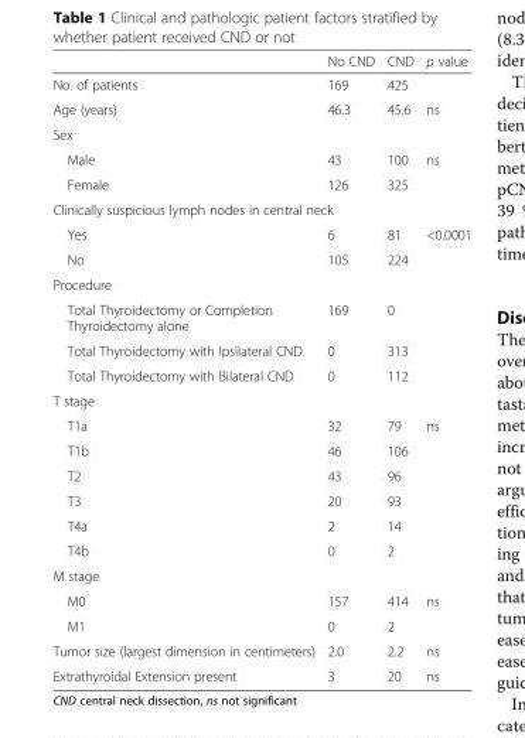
<table><thead><tr><td></td><td>No CND</td><td>CND</td><td>p value</td></tr></thead><tbody><tr><td>No. of patients</td><td>169</td><td>425</td><td></td></tr><tr><td>Age (years)</td><td>46.3</td><td>45.6</td><td>ns</td></tr><tr><td colspan="4">Sex</td></tr><tr><td>Male</td><td>43</td><td>100</td><td rowspan="2">ns</td></tr><tr><td>Female</td><td>126</td><td>325</td></tr><tr><td colspan="4">Clinically suspicious lymph nodes in central neck</td></tr><tr><td>Yes</td><td>6</td><td>81</td><td rowspan="2">&lt;0.0001</td></tr><tr><td>No</td><td>105</td><td>224</td></tr><tr><td colspan="4">Procedure</td></tr><tr><td>Total Thyroidectomy or Completion Thyroidectomy alone</td><td>169</td><td>0</td><td rowspan="3"></td></tr><tr><td>Total Thyroidectomy with Ipsilateral CND</td><td>0</td><td>313</td></tr><tr><td>Total Thyroidectomy with Bilateral CND</td><td>0</td><td>112</td></tr><tr><td colspan="4">T stage</td></tr><tr><td>T1a</td><td>32</td><td>79</td><td rowspan="6">ns</td></tr><tr><td>T1b</td><td>46</td><td>106</td></tr><tr><td>T2</td><td>43</td><td>96</td></tr><tr><td>T3</td><td>20</td><td>93</td></tr><tr><td>T4a</td><td>2</td><td>14</td></tr><tr><td>T4b</td><td>0</td><td>2</td></tr><tr><td colspan="4">M stage</td></tr><tr><td>M0</td><td>157</td><td>414</td><td rowspan="2">ns</td></tr><tr><td>M1</td><td>0</td><td>2</td></tr><tr><td>Tumor size (largest dimension in centimeters)</td><td>2.0</td><td>2.2</td><td>ns</td></tr><tr><td>Extrathyroidal Extension present</td><td>3</td><td>20</td><td>ns</td></tr></tbody></table>